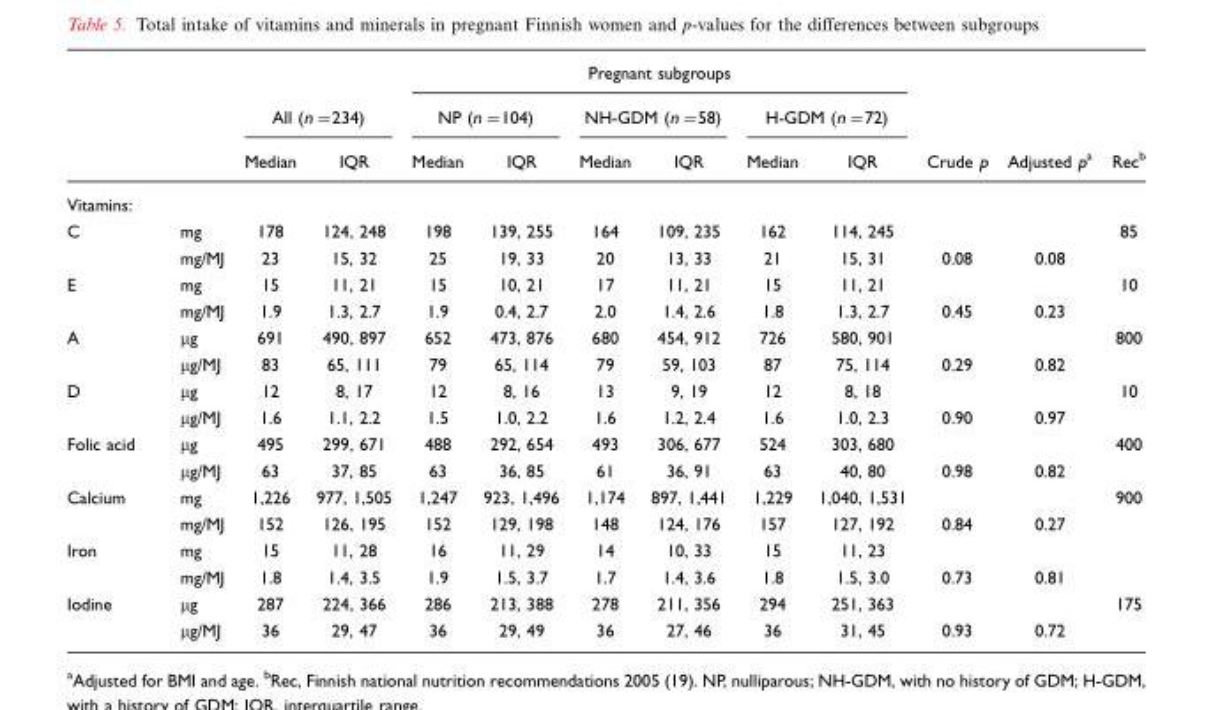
<table><thead><tr><td rowspan="3"></td><td rowspan="3"></td><td></td><td></td><td colspan="6">Pregnant subgroups</td><td rowspan="3">Crude p</td><td rowspan="3">Adjusted pa</td><td rowspan="3">Rec<sup>b</sup></td></tr><tr><td colspan="2">All (n=234)</td><td colspan="2">NP (n=104)</td><td colspan="2">NH-GDM (n=58)</td><td colspan="2">H-GDM (n=72)</td></tr><tr><td>Median</td><td>IQR</td><td>Median</td><td>IQR</td><td>Median</td><td>IQR</td><td>Median</td><td>IQR</td></tr></thead><tbody><tr><td colspan="13">Vitamins:</td></tr><tr><td rowspan="2">C</td><td>mg</td><td>178</td><td>124, 248</td><td>198</td><td>139, 255</td><td>164</td><td>109, 235</td><td>162</td><td>114, 245</td><td></td><td></td><td>85</td></tr><tr><td>mg/MJ</td><td>23</td><td>15, 32</td><td>25</td><td>19, 33</td><td>20</td><td>13, 33</td><td>21</td><td>15, 31</td><td>0.08</td><td>0.08</td><td></td></tr><tr><td rowspan="2">E</td><td>mg</td><td>15</td><td>11, 21</td><td>15</td><td>10, 21</td><td>17</td><td>11, 21</td><td>15</td><td>11, 21</td><td></td><td></td><td>10</td></tr><tr><td>mg/MJ</td><td>1.9</td><td>1.3, 2.7</td><td>1.9</td><td>0.4, 2.7</td><td>2.0</td><td>1.4, 2.6</td><td>1.8</td><td>1.3, 2.7</td><td>0.45</td><td>0.23</td><td></td></tr><tr><td rowspan="2">A</td><td>µg</td><td>691</td><td>490, 897</td><td>652</td><td>473, 876</td><td>680</td><td>454, 912</td><td>726</td><td>580, 901</td><td></td><td></td><td>800</td></tr><tr><td>µg/MJ</td><td>83</td><td>65, 111</td><td>79</td><td>65, 114</td><td>79</td><td>59, 103</td><td>87</td><td>75, 114</td><td>0.29</td><td>0.82</td><td></td></tr><tr><td rowspan="2">D</td><td>µg</td><td>12</td><td>8, 17</td><td>12</td><td>8, 16</td><td>13</td><td>9, 19</td><td>12</td><td>8, 18</td><td></td><td></td><td>10</td></tr><tr><td>µg/MJ</td><td>1.6</td><td>1.1, 2.2</td><td>1.5</td><td>1.0, 2.2</td><td>1.6</td><td>1.2, 2.4</td><td>1.6</td><td>1.0, 2.3</td><td>0.90</td><td>0.97</td><td></td></tr><tr><td rowspan="2">Folic acid</td><td>µg</td><td>495</td><td>299, 671</td><td>488</td><td>292, 654</td><td>493</td><td>306, 677</td><td>524</td><td>303, 680</td><td></td><td></td><td>400</td></tr><tr><td>µg/MJ</td><td>63</td><td>37, 85</td><td>63</td><td>36, 85</td><td>61</td><td>36, 91</td><td>63</td><td>40, 80</td><td>0.98</td><td>0.82</td><td></td></tr><tr><td rowspan="2">Calcium</td><td>mg</td><td>1,226</td><td>977, 1,505</td><td>1,247</td><td>923, 1,496</td><td>1,174</td><td>897, 1,441</td><td>1,229</td><td>1,040, 1,531</td><td></td><td></td><td>900</td></tr><tr><td>mg/MJ</td><td>152</td><td>126, 195</td><td>152</td><td>129, 198</td><td>148</td><td>124, 176</td><td>157</td><td>127, 192</td><td>0.84</td><td>0.27</td><td></td></tr><tr><td rowspan="2">Iron</td><td>mg</td><td>15</td><td>11, 28</td><td>16</td><td>11, 29</td><td>14</td><td>10, 33</td><td>15</td><td>11, 23</td><td></td><td></td><td></td></tr><tr><td>mg/MJ</td><td>1.8</td><td>1.4, 3.5</td><td>1.9</td><td>1.5, 3.7</td><td>1.7</td><td>1.4, 3.6</td><td>1.8</td><td>1.5, 3.0</td><td>0.73</td><td>0.81</td><td></td></tr><tr><td rowspan="2">Iodine</td><td>µg</td><td>287</td><td>224, 366</td><td>286</td><td>213, 388</td><td>278</td><td>211, 356</td><td>294</td><td>251, 363</td><td></td><td></td><td>175</td></tr><tr><td>µg/MJ</td><td>36</td><td>29, 47</td><td>36</td><td>29, 49</td><td>36</td><td>27, 46</td><td>36</td><td>31, 45</td><td>0.93</td><td>0.72</td><td></td></tr></tbody></table>